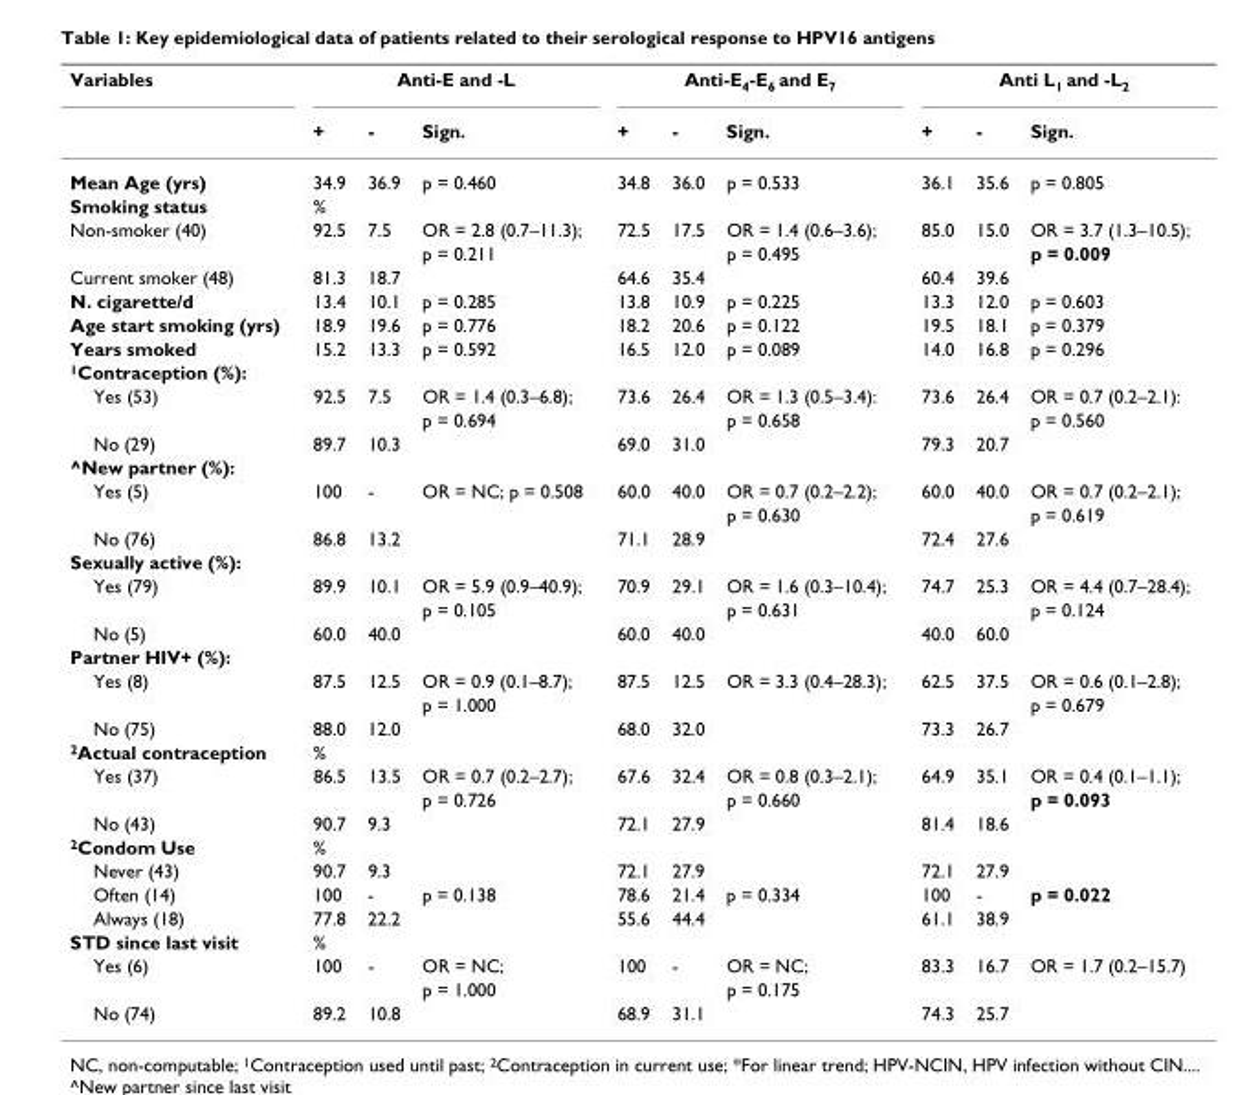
<table><thead><tr><td rowspan="2">Variables</td><td colspan="3">Anti-E and -L</td><td colspan="3">Anti-E<sub>4</sub>-E<sub>6</sub> and E<sub>7</sub></td><td colspan="3">Anti L<sub>1</sub> and -L<sub>2</sub></td></tr><tr><td>+</td><td>-</td><td>Sign.</td><td>+</td><td>-</td><td>Sign.</td><td>+</td><td>-</td><td>Sign.</td></tr></thead><tbody><tr><td>Mean Age (yrs)</td><td>34.9</td><td>36.9</td><td>p = 0.460</td><td>34.8</td><td>36.0</td><td>p = 0.533</td><td>36.1</td><td>35.6</td><td>p = 0.805</td></tr><tr><td>Smoking status</td><td>%</td><td></td><td></td><td></td><td></td><td></td><td></td><td></td><td></td></tr><tr><td rowspan="2">Non-smoker (40)</td><td>92.5</td><td>7.5</td><td>OR = 2.8 (0.7–11.3);</td><td>72.5</td><td>17.5</td><td>OR = 1.4 (0.6–3.6);</td><td>85.0</td><td>15.0</td><td>OR = 3.7 (1.3–10.5);</td></tr><tr><td></td><td></td><td>p = 0.211</td><td></td><td></td><td>p = 0.495</td><td></td><td></td><td>p = 0.009</td></tr><tr><td>Current smoker (48)</td><td>81.3</td><td>18.7</td><td></td><td>64.6</td><td>35.4</td><td></td><td>60.4</td><td>39.6</td><td></td></tr><tr><td>N. cigarette/d</td><td>13.4</td><td>10.1</td><td>p = 0.285</td><td>13.8</td><td>10.9</td><td>p = 0.225</td><td>13.3</td><td>12.0</td><td>p = 0.603</td></tr><tr><td>Age start smoking (yrs)</td><td>18.9</td><td>19.6</td><td>p = 0.776</td><td>18.2</td><td>20.6</td><td>p = 0.122</td><td>19.5</td><td>18.1</td><td>p = 0.379</td></tr><tr><td>Years smoked</td><td>15.2</td><td>13.3</td><td>p = 0.592</td><td>16.5</td><td>12.0</td><td>p = 0.089</td><td>14.0</td><td>16.8</td><td>p = 0.296</td></tr><tr><td colspan="10"><sup>1</sup>Contraception (%):</td></tr><tr><td rowspan="2">Yes (53)</td><td>92.5</td><td>7.5</td><td>OR = 1.4 (0.3–6.8);</td><td>73.6</td><td>26.4</td><td>OR = 1.3 (0.5–3.4):</td><td>73.6</td><td>26.4</td><td>OR = 0.7 (0.2–2.1):</td></tr><tr><td></td><td></td><td>p = 0.694</td><td></td><td></td><td>p = 0.658</td><td></td><td></td><td>p = 0.560</td></tr><tr><td>No (29)</td><td>89.7</td><td>10.3</td><td></td><td>69.0</td><td>31.0</td><td></td><td>79.3</td><td>20.7</td><td></td></tr><tr><td colspan="10">^New partner (%):</td></tr><tr><td rowspan="2">Yes (5)</td><td>100</td><td>-</td><td>OR = NC; p = 0.508</td><td>60.0</td><td>40.0</td><td>OR = 0.7 (0.2–2.2);</td><td>60.0</td><td>40.0</td><td>OR = 0.7 (0.2–2.1);</td></tr><tr><td></td><td></td><td></td><td></td><td></td><td>p = 0.630</td><td></td><td></td><td>p = 0.619</td></tr><tr><td>No (76)</td><td>86.8</td><td>13.2</td><td></td><td>71.1</td><td>28.9</td><td></td><td>72.4</td><td>27.6</td><td></td></tr><tr><td colspan="10">Sexually active (%):</td></tr><tr><td rowspan="2">Yes (79)</td><td>89.9</td><td>10.1</td><td>OR = 5.9 (0.9–40.9);</td><td>70.9</td><td>29.1</td><td>OR = 1.6 (0.3–10.4);</td><td>74.7</td><td>25.3</td><td>OR = 4.4 (0.7–28.4);</td></tr><tr><td></td><td></td><td>p = 0.105</td><td></td><td></td><td>p = 0.631</td><td></td><td></td><td>p = 0.124</td></tr><tr><td>No (5)</td><td>60.0</td><td>40.0</td><td></td><td>60.0</td><td>40.0</td><td></td><td>40.0</td><td>60.0</td><td></td></tr><tr><td colspan="10">Partner HIV+ (%):</td></tr><tr><td rowspan="2">Yes (8)</td><td>87.5</td><td>12.5</td><td>OR = 0.9 (0.1–8.7);</td><td>87.5</td><td>12.5</td><td>OR = 3.3 (0.4–28.3);</td><td>62.5</td><td>37.5</td><td>OR = 0.6 (0.1–2.8);</td></tr><tr><td></td><td></td><td>p = 1.000</td><td></td><td></td><td></td><td></td><td></td><td>p = 0.679</td></tr><tr><td>No (75)</td><td>88.0</td><td>12.0</td><td></td><td>68.0</td><td>32.0</td><td></td><td>73.3</td><td>26.7</td><td></td></tr><tr><td><sup>2</sup>Actual contraception</td><td>%</td><td></td><td></td><td></td><td></td><td></td><td></td><td></td><td></td></tr><tr><td rowspan="2">Yes (37)</td><td>86.5</td><td>13.5</td><td>OR = 0.7 (0.2–2.7);</td><td>67.6</td><td>32.4</td><td>OR = 0.8 (0.3–2.1);</td><td>64.9</td><td>35.1</td><td>OR = 0.4 (0.1–1.1);</td></tr><tr><td></td><td></td><td>p = 0.726</td><td></td><td></td><td>p = 0.660</td><td></td><td></td><td>p = 0.093</td></tr><tr><td>No (43)</td><td>90.7</td><td>9.3</td><td></td><td>72.1</td><td>27.9</td><td></td><td>81.4</td><td>18.6</td><td></td></tr><tr><td><sup>2</sup>Condom Use</td><td>%</td><td></td><td></td><td></td><td></td><td></td><td></td><td></td><td></td></tr><tr><td>Never (43)</td><td>90.7</td><td>9.3</td><td></td><td>72.1</td><td>27.9</td><td></td><td>72.1</td><td>27.9</td><td></td></tr><tr><td>Often (14)</td><td>100</td><td>-</td><td>p = 0.138</td><td>78.6</td><td>21.4</td><td>p = 0.334</td><td>100</td><td>-</td><td>p = 0.022</td></tr><tr><td>Always (18)</td><td>77.8</td><td>22.2</td><td></td><td>55.6</td><td>44.4</td><td></td><td>61.1</td><td>38.9</td><td></td></tr><tr><td>STD since last visit</td><td>%</td><td></td><td></td><td></td><td></td><td></td><td></td><td></td><td></td></tr><tr><td rowspan="2">Yes (6)</td><td>100</td><td>-</td><td>OR = NC;</td><td>100</td><td>-</td><td>OR = NC;</td><td>83.3</td><td>16.7</td><td>OR = 1.7 (0.2–15.7)</td></tr><tr><td></td><td></td><td>p = 1.000</td><td></td><td></td><td>p = 0.175</td><td></td><td></td><td></td></tr><tr><td>No (74)</td><td>89.2</td><td>10.8</td><td></td><td>68.9</td><td>31.1</td><td></td><td>74.3</td><td>25.7</td><td></td></tr></tbody></table>